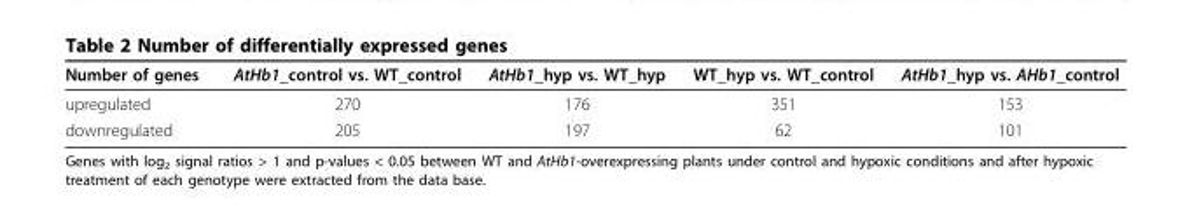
<table><thead><tr><td>Number of genes</td><td>AtHb1_control vs. WT_control</td><td>AtHb1_hyp vs. WT_hyp</td><td>WT_hyp vs. WT_control</td><td>AtHb1_hyp vs. AHb1_control</td></tr></thead><tbody><tr><td>upregulated</td><td>270</td><td>176</td><td>351</td><td>153</td></tr><tr><td>downregulated</td><td>205</td><td>197</td><td>62</td><td>101</td></tr></tbody></table>